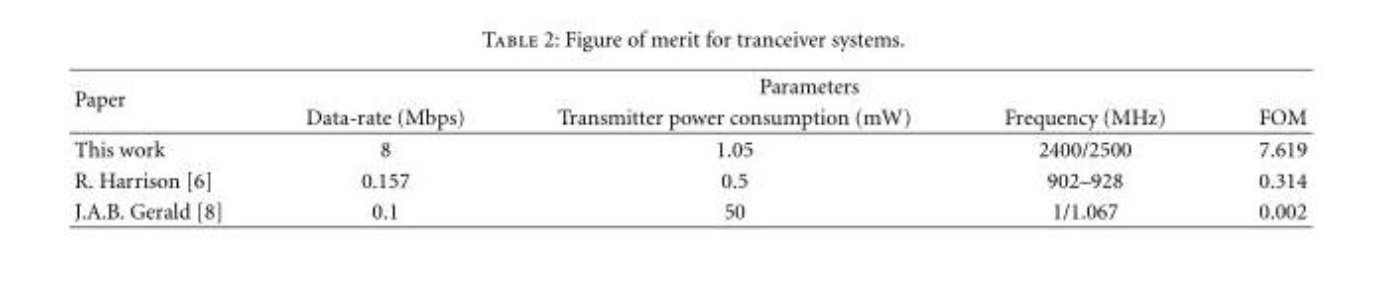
<table><thead><tr><td rowspan="2">Paper</td><td colspan="4">Parameters</td></tr><tr><td>Data-rate (Mbps)</td><td>Transmitter power consumption (mW)</td><td>Frequency (MHz)</td><td>FOM</td></tr></thead><tbody><tr><td>This work</td><td>8</td><td>1.05</td><td>2400/2500</td><td>7.619</td></tr><tr><td>R. Harrison [6]</td><td>0.157</td><td>0.5</td><td>902–928</td><td>0.314</td></tr><tr><td>J.A.B. Gerald [8]</td><td>0.1</td><td>50</td><td>1/1.067</td><td>0.002</td></tr></tbody></table>